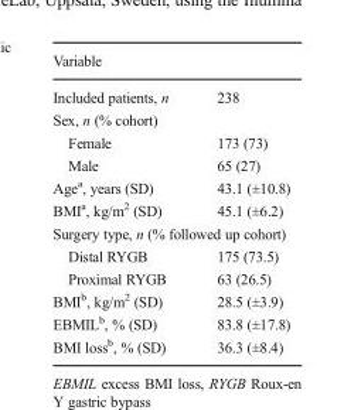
<table><thead><tr><td colspan="2">Variable</td></tr><tr><td>Included patients, n</td><td>238</td></tr></thead><tbody><tr><td colspan="2">Sex, n (% cohort)</td></tr><tr><td>Female</td><td>173 (73)</td></tr><tr><td>Male</td><td>65 (27)</td></tr><tr><td>Age<sup>a</sup>, years (SD)</td><td>43.1 (±10.8)</td></tr><tr><td>BMI<sup>a</sup>, kg/m<sup>2</sup> (SD)</td><td>45.1 (±6.2)</td></tr><tr><td colspan="2">Surgery type, n (% followed up cohort)</td></tr><tr><td>Distal RYGB</td><td>175 (73.5)</td></tr><tr><td>Proximal RYGB</td><td>63 (26.5)</td></tr><tr><td>BMI<sup>b</sup>, kg/m<sup>2</sup> (SD)</td><td>28.5 (±3.9)</td></tr><tr><td>EBMIL<sup>b</sup>, % (SD)</td><td>83.8 (±17.8)</td></tr><tr><td>BMI loss<sup>b</sup>, % (SD)</td><td>36.3 (±8.4)</td></tr></tbody></table>